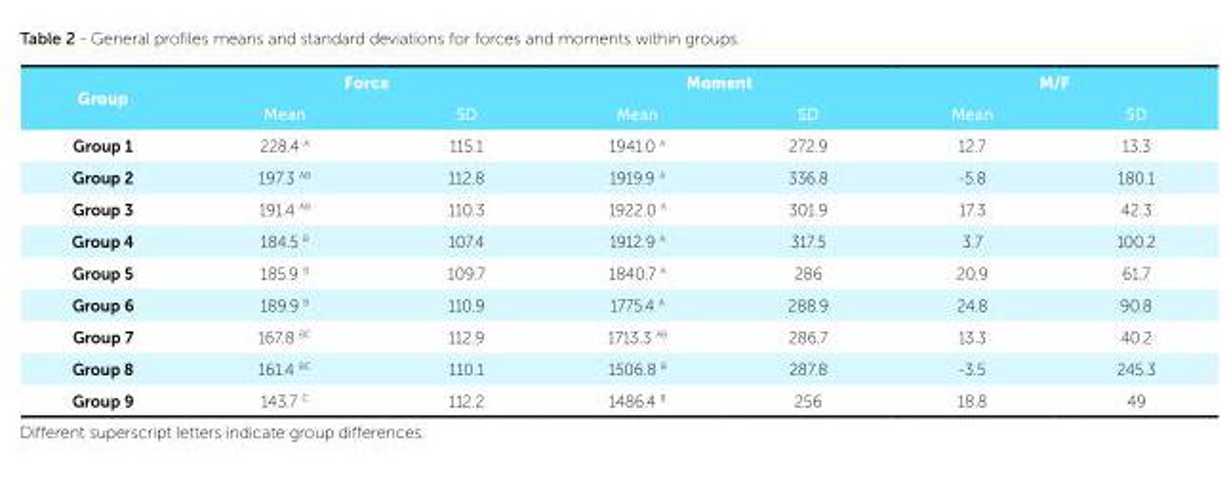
<table><tbody><tr><td rowspan="2">Group</td><td colspan="3">Force</td><td colspan="2">Moment</td><td>M/F</td></tr><tr><td>Mean</td><td>SD</td><td>Mean</td><td>SD</td><td>Mean</td><td>SD</td></tr><tr><td>Group 1</td><td>228.4 A</td><td>115.1</td><td>1941.0 A</td><td>272.9</td><td>12.7</td><td>13.3</td></tr><tr><td>Group 2</td><td>197.3 AB</td><td>112.8</td><td>1919.9 A</td><td>336.8</td><td>-5.8</td><td>180.1</td></tr><tr><td>Group 3</td><td>191.4 AB</td><td>110.3</td><td>1922.0 A</td><td>301.9</td><td>17.3</td><td>42.3</td></tr><tr><td>Group 4</td><td>184.5 <sup>B</sup></td><td>107.4</td><td>1912.9 A</td><td>317.5</td><td>3.7</td><td>100.2</td></tr><tr><td>Group 5</td><td>185.9 <sup>B</sup></td><td>109.7</td><td>1840.7 A</td><td>286</td><td>20.9</td><td>61.7</td></tr><tr><td>Group 6</td><td>189.9 <sup>B</sup></td><td>110.9</td><td>1775.4 A</td><td>288.9</td><td>24.8</td><td>90.8</td></tr><tr><td>Group 7</td><td>167.8 <sup>BC</sup></td><td>112.9</td><td>1713.3 AB</td><td>286.7</td><td>13.3</td><td>40.2</td></tr><tr><td>Group 8</td><td>161.4 <sup>BC</sup></td><td>110.1</td><td>1506.8 <sup>B</sup></td><td>287.8</td><td>-3.5</td><td>245.3</td></tr><tr><td>Group 9</td><td>143.7 <sup>C</sup></td><td>112.2</td><td>1486.4 <sup>B</sup></td><td>256</td><td>18.8</td><td>49</td></tr></tbody></table>